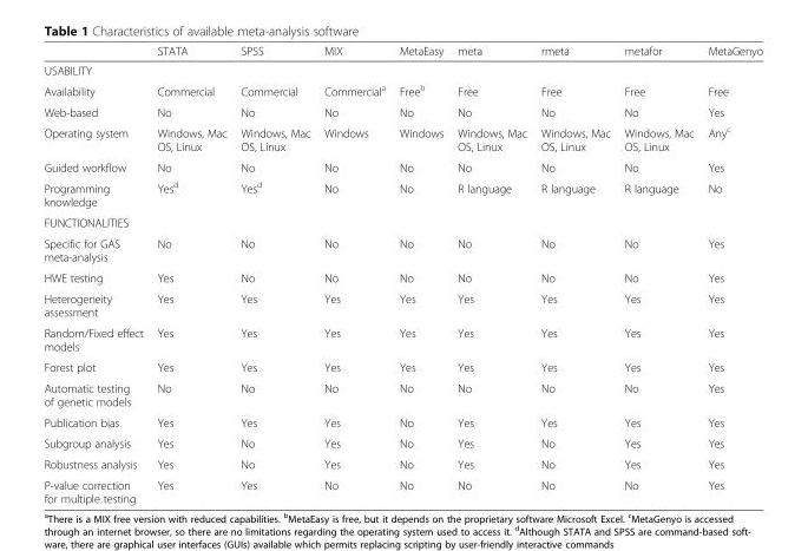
<table><thead><tr><td></td><td>STATA</td><td>SPSS</td><td>MIX</td><td>MetaEasy</td><td>meta</td><td>rmeta</td><td>metafor</td><td>MetaGenyo</td></tr></thead><tbody><tr><td colspan="9">USABILITY</td></tr><tr><td>Availability</td><td>Commercial</td><td>Commercial</td><td>Commercial<sup>a</sup></td><td>Free<sup>b</sup></td><td>Free</td><td>Free</td><td>Free</td><td>Free</td></tr><tr><td>Web-based</td><td>No</td><td>No</td><td>No</td><td>No</td><td>No</td><td>No</td><td>No</td><td>Yes</td></tr><tr><td>Operating system</td><td>Windows, Mac OS, Linux</td><td>Windows, Mac OS, Linux</td><td>Windows</td><td>Windows</td><td>Windows, Mac OS, Linux</td><td>Windows, Mac OS, Linux</td><td>Windows, Mac OS, Linux</td><td>Any<sup>c</sup></td></tr><tr><td>Guided workflow</td><td>No</td><td>No</td><td>No</td><td>No</td><td>No</td><td>No</td><td>No</td><td>Yes</td></tr><tr><td>Programming knowledge</td><td>Yes<sup>d</sup></td><td>Yes<sup>d</sup></td><td>No</td><td>No</td><td>R language</td><td>R language</td><td>R language</td><td>No</td></tr><tr><td colspan="9">FUNCTIONALITIES</td></tr><tr><td>Specific for GAS meta-analysis</td><td>No</td><td>No</td><td>No</td><td>No</td><td>No</td><td>No</td><td>No</td><td>Yes</td></tr><tr><td>HWE testing</td><td>Yes</td><td>No</td><td>No</td><td>No</td><td>No</td><td>No</td><td>No</td><td>Yes</td></tr><tr><td>Heterogeneity assessment</td><td>Yes</td><td>Yes</td><td>Yes</td><td>Yes</td><td>Yes</td><td>Yes</td><td>Yes</td><td>Yes</td></tr><tr><td>Random/Fixed effect models</td><td>Yes</td><td>Yes</td><td>Yes</td><td>Yes</td><td>Yes</td><td>Yes</td><td>Yes</td><td>Yes</td></tr><tr><td>Forest plot</td><td>Yes</td><td>Yes</td><td>Yes</td><td>Yes</td><td>Yes</td><td>Yes</td><td>Yes</td><td>Yes</td></tr><tr><td>Automatic testing of genetic models</td><td>No</td><td>No</td><td>No</td><td>No</td><td>No</td><td>No</td><td>No</td><td>Yes</td></tr><tr><td>Publication bias</td><td>Yes</td><td>Yes</td><td>Yes</td><td>No</td><td>Yes</td><td>Yes</td><td>Yes</td><td>Yes</td></tr><tr><td>Subgroup analysis</td><td>Yes</td><td>No</td><td>Yes</td><td>No</td><td>Yes</td><td>No</td><td>Yes</td><td>Yes</td></tr><tr><td>Robustness analysis</td><td>Yes</td><td>No</td><td>Yes</td><td>No</td><td>Yes</td><td>No</td><td>Yes</td><td>Yes</td></tr><tr><td>P-value correction for multiple testing</td><td>Yes</td><td>Yes</td><td>No</td><td>No</td><td>No</td><td>No</td><td>No</td><td>Yes</td></tr></tbody></table>